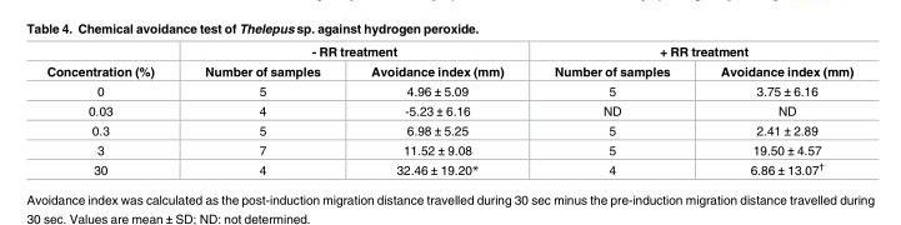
<table><thead><tr><td rowspan="2">Concentration (%)</td><td colspan="2">- RR treatment</td><td colspan="2">+ RR treatment</td></tr><tr><td>Number of samples</td><td>Avoidance index (mm)</td><td>Number of samples</td><td>Avoidance index (mm)</td></tr></thead><tbody><tr><td>0</td><td>5</td><td>4.96 ± 5.09</td><td>5</td><td>3.75 ± 6.16</td></tr><tr><td>0.03</td><td>4</td><td>-5.23 ± 6.16</td><td>ND</td><td>ND</td></tr><tr><td>0.3</td><td>5</td><td>6.98 ± 5.25</td><td>5</td><td>2.41 ± 2.89</td></tr><tr><td>3</td><td>7</td><td>11.52 ± 9.08</td><td>5</td><td>19.50 ± 4.57</td></tr><tr><td>30</td><td>4</td><td>32.46 ± 19.20*</td><td>4</td><td>6.86 ± 13.07<sup>†</sup></td></tr></tbody></table>